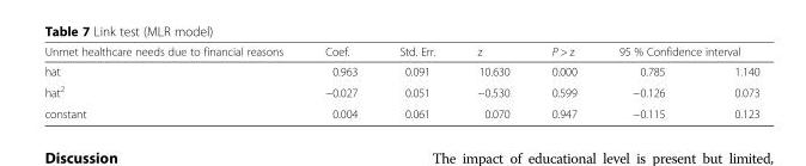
<table><thead><tr><td rowspan="2">Unmet healthcare needs due to financial reasons hat</td><td rowspan="2">Coef. 0.963</td><td rowspan="2">Std. Err. 0.091</td><td rowspan="2">z 10.630</td><td rowspan="2">P &gt; z 0.000</td><td colspan="2">95 % Confidence interval</td></tr><tr><td>0.785</td><td>1.140</td></tr></thead><tbody><tr><td>hat<sup>2</sup></td><td>−0.027</td><td>0.051</td><td>−0.530</td><td>0.599</td><td>−0.126</td><td>0.073</td></tr><tr><td>constant</td><td>0.004</td><td>0.061</td><td>0.070</td><td>0.947</td><td>−0.115</td><td>0.123</td></tr></tbody></table>